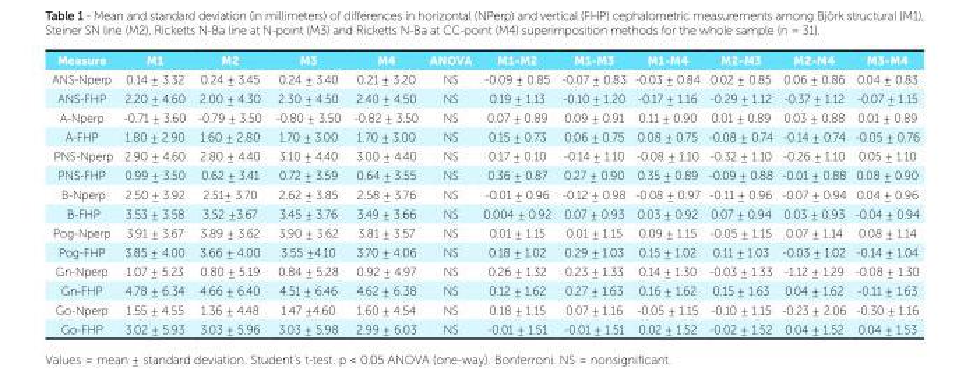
<table><thead><tr><td>Measure</td><td>M1</td><td>M2</td><td>M3</td><td>M4</td><td>ANOVA</td><td>M1-M2</td><td>M1-M3</td><td>M1-M4</td><td>M2-M3</td><td>M2-M4</td><td>M3-M4</td></tr></thead><tbody><tr><td>ANS-Nperp</td><td>0.14 ± 3.32</td><td>0.24 ± 3.45</td><td>0.24 ± 3.40</td><td>0.21 ± 3.20</td><td>NS</td><td>-0.09 ± 0.85</td><td>-0.07 ± 0.83</td><td>-0.03 ± 0.84</td><td>0.02 ± 0.85</td><td>0.06 ± 0.86</td><td>0.04 ± 0.83</td></tr><tr><td>ANS-FHP</td><td>2.20 ± 4.60</td><td>2.00 ± 4.30</td><td>2.30 ± 4.50</td><td>2.40 ± 4.50</td><td>NS</td><td>0.19 ± 1.13</td><td>-0.10 ± 1.20</td><td>-0.17 ± 1.16</td><td>-0.29 ± 1.12</td><td>-0.37 ± 1.12</td><td>-0.07 ± 1.15</td></tr><tr><td>A-Nperp</td><td>-0.71 ± 3.60</td><td>-0.79 ± 3.50</td><td>-0.80 ± 3.50</td><td>-0.82 ± 3.50</td><td>NS</td><td>0.07 ± 0.89</td><td>0.09 ± 0.91</td><td>0.11 ± 0.90</td><td>0.01 ± 0.89</td><td>0.03 ± 0.88</td><td>0.01 ± 0.89</td></tr><tr><td>A-FHP</td><td>1.80 ± 2.90</td><td>1.60 ± 2.80</td><td>1.70 ± 3.00</td><td>1.70 ± 3.00</td><td>NS</td><td>0.15 ± 0.73</td><td>0.06 ± 0.75</td><td>0.08 ± 0.75</td><td>-0.08 ± 0.74</td><td>-0.14 ± 0.74</td><td>-0.05 ± 0.76</td></tr><tr><td>PNS-Nperp</td><td>2.90 ± 4.60</td><td>2.80 ± 4.40</td><td>3.10 ± 4.40</td><td>3.00 ± 4.40</td><td>NS</td><td>0.17 ± 0.10</td><td>-0.14 ± 1.10</td><td>-0.08 ± 1.10</td><td>-0.32 ± 1.10</td><td>-0.26 ± 1.10</td><td>0.05 ± 1.10</td></tr><tr><td>PNS-FHP</td><td>0.99 ± 3.50</td><td>0.62 ± 3.41</td><td>0.72 ± 3.59</td><td>0.64 ± 3.55</td><td>NS</td><td>0.36 ± 0.87</td><td>0.27 ± 0.90</td><td>0.35 ± 0.89</td><td>-0.09 ± 0.88</td><td>-0.01 ± 0.88</td><td>0.08 ± 0.90</td></tr><tr><td>B-Nperp</td><td>2.50 ± 3.92</td><td>2.51± 3.70</td><td>2.62 ± 3.85</td><td>2.58 ± 3.76</td><td>NS</td><td>-0.01 ± 0.96</td><td>-0.12 ± 0.98</td><td>-0.08 ± 0.97</td><td>-0.11 ± 0.96</td><td>-0.07 ± 0.94</td><td>0.04 ± 0.96</td></tr><tr><td>B-FHP</td><td>3.53 ± 3.58</td><td>3.52 ±3.67</td><td>3.45 ± 3.76</td><td>3.49 ± 3.66</td><td>NS</td><td>0.004 ± 0.92</td><td>0.07 ± 0.93</td><td>0.03 ± 0.92</td><td>0.07 ± 0.94</td><td>0.03 ± 0.93</td><td>-0.04 ± 0.94</td></tr><tr><td>Pog-Nperp</td><td>3.91 ± 3.67</td><td>3.89 ± 3.62</td><td>3.90 ± 3.62</td><td>3.81 ± 3.57</td><td>NS</td><td>0.01 ± 1.15</td><td>0.01 ± 1.15</td><td>0.09 ± 1.15</td><td>-0.05 ± 1.15</td><td>0.07 ± 1.14</td><td>0.08 ± 1.14</td></tr><tr><td>Pog-FHP</td><td>3.85 ± 4.00</td><td>3.66 ± 4.00</td><td>3.55 ±4.10</td><td>3.70 ± 4.06</td><td>NS</td><td>0.18 ± 1.02</td><td>0.29 ± 1.03</td><td>0.15 ± 1.02</td><td>0.11 ± 1.03</td><td>-0.03 ± 1.02</td><td>-0.14 ± 1.04</td></tr><tr><td>Gn-Nperp</td><td>1.07 ± 5.23</td><td>0.80 ± 5.19</td><td>0.84 ± 5.28</td><td>0.92 ± 4.97</td><td>NS</td><td>0.26 ± 1.32</td><td>0.23 ± 1.33</td><td>0.14 ± 1.30</td><td>-0.03 ± 1.33</td><td>-1.12 ± 1.29</td><td>-0.08 ± 1.30</td></tr><tr><td>Gn-FHP</td><td>4.78 ± 6.34</td><td>4.66 ± 6.40</td><td>4.51 ± 6.46</td><td>4.62 ± 6.38</td><td>NS</td><td>0.12 ± 1.62</td><td>0.27 ± 1.63</td><td>0.16 ± 1.62</td><td>0.15 ± 1.63</td><td>0.04 ± 1.62</td><td>-0.11 ± 1.63</td></tr><tr><td>Go-Nperp</td><td>1.55 ± 4.55</td><td>1.36 ± 4.48</td><td>1.47 ±4.60</td><td>1.60 ± 4.54</td><td>NS</td><td>0.18 ± 1.15</td><td>0.07 ± 1.16</td><td>-0.05 ± 1.15</td><td>-0.10 ± 1.15</td><td>-0.23 ± 2.06</td><td>-0.30 ± 1.16</td></tr><tr><td>Go-FHP</td><td>3.02 ± 5.93</td><td>3.03 ± 5.96</td><td>3.03 ± 5.98</td><td>2.99 ± 6.03</td><td>NS</td><td>-0.01 ± 1.51</td><td>-0.01 ± 1.51</td><td>0.02 ± 1.52</td><td>-0.02 ± 1.52</td><td>0.04 ± 1.52</td><td>0.04 ± 1.53</td></tr></tbody></table>